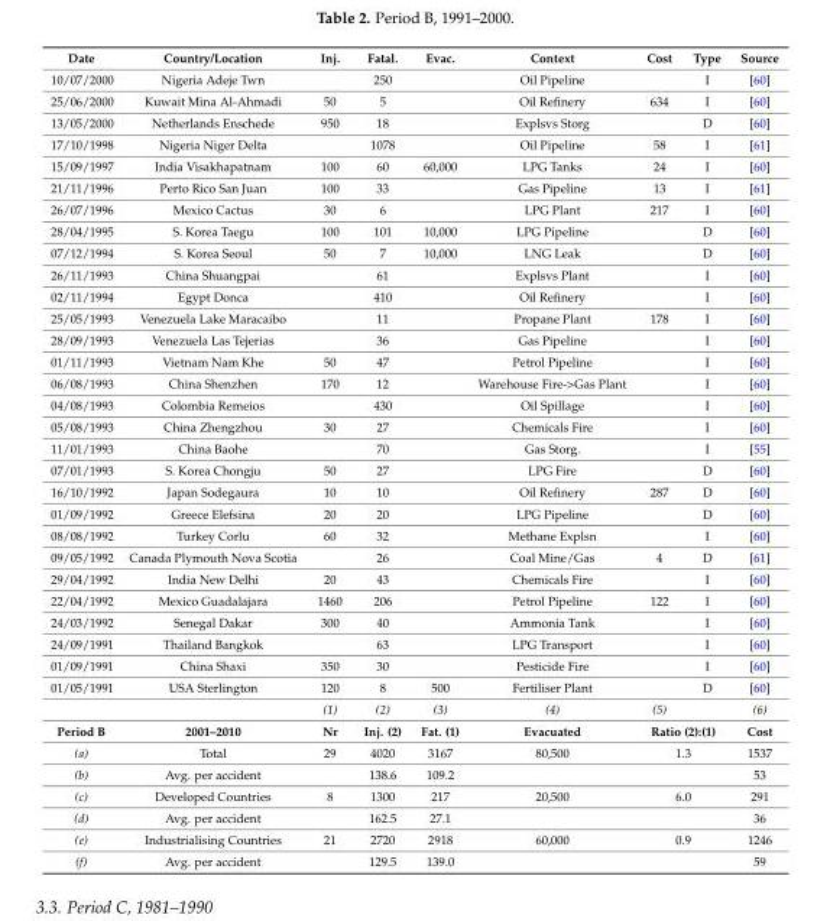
<table><tbody><tr><td>Date</td><td>Country/Location</td><td>Inj.</td><td>Fatal.</td><td>Evac.</td><td>Context</td><td>Cost</td><td>Type</td><td>Source</td></tr><tr><td>10/07/2000</td><td>Nigeria Adeje Twn</td><td></td><td>250</td><td></td><td>Oil Pipeline</td><td></td><td>I</td><td>[60]</td></tr><tr><td>25/06/2000</td><td>Kuwait Mina Al-Ahmadi</td><td>50</td><td>5</td><td></td><td>Oil Refinery</td><td>634</td><td>I</td><td>[60]</td></tr><tr><td>13/05/2000</td><td>Netherlands Enschede</td><td>950</td><td>18</td><td></td><td>Explsvs Storg</td><td></td><td>D</td><td>[60]</td></tr><tr><td>17/10/1998</td><td>Nigeria Niger Delta</td><td></td><td>1078</td><td></td><td>Oil Pipeline</td><td>58</td><td>I</td><td>[61]</td></tr><tr><td>15/09/1997</td><td>India Visakhapatnam</td><td>100</td><td>60</td><td>60,000</td><td>LPG Tanks</td><td>24</td><td>I</td><td>[60]</td></tr><tr><td>21/11/1996</td><td>Perto Rico San Juan</td><td>100</td><td>33</td><td></td><td>Gas Pipeline</td><td>13</td><td>I</td><td>[61]</td></tr><tr><td>26/07/1996</td><td>Mexico Cactus</td><td>30</td><td>6</td><td></td><td>LPG Plant</td><td>217</td><td>I</td><td>[60]</td></tr><tr><td>28/04/1995</td><td>S. Korea Taegu</td><td>100</td><td>101</td><td>10,000</td><td>LPG Pipeline</td><td></td><td>D</td><td>[60]</td></tr><tr><td>07/12/1994</td><td>S. Korea Seoul</td><td>50</td><td>7</td><td>10,000</td><td>LNG Leak</td><td></td><td>D</td><td>[60]</td></tr><tr><td>26/11/1993</td><td>China Shuangpai</td><td></td><td>61</td><td></td><td>Explsvs Plant</td><td></td><td>I</td><td>[60]</td></tr><tr><td>02/11/1994</td><td>Egypt Donca</td><td></td><td>410</td><td></td><td>Oil Refinery</td><td></td><td>I</td><td>[60]</td></tr><tr><td>25/05/1993</td><td>Venezuela Lake Maracaibo</td><td></td><td>11</td><td></td><td>Propane Plant</td><td>178</td><td>I</td><td>[60]</td></tr><tr><td>28/09/1993</td><td>Venezuela Las Tejerias</td><td></td><td>36</td><td></td><td>Gas Pipeline</td><td></td><td>I</td><td>[60]</td></tr><tr><td>01/11/1993</td><td>Vietnam Nam Khe</td><td>50</td><td>47</td><td></td><td>Petrol Pipeline</td><td></td><td>I</td><td>[60]</td></tr><tr><td>06/08/1993</td><td>China Shenzhen</td><td>170</td><td>12</td><td></td><td>Warehouse Fire-&gt;Gas Plant</td><td></td><td>I</td><td>[60]</td></tr><tr><td>04/08/1993</td><td>Colombia Remeios</td><td></td><td>430</td><td></td><td>Oil Spillage</td><td></td><td>I</td><td>[60]</td></tr><tr><td>05/08/1993</td><td>China Zhengzhou</td><td>30</td><td>27</td><td></td><td>Chemicals Fire</td><td></td><td>I</td><td>[60]</td></tr><tr><td>11/01/1993</td><td>China Baohe</td><td></td><td>70</td><td></td><td>Gas Storg.</td><td></td><td>I</td><td>[55]</td></tr><tr><td>07/01/1993</td><td>S. Korea Chongju</td><td>50</td><td>27</td><td></td><td>LPG Fire</td><td></td><td>D</td><td>[60]</td></tr><tr><td>16/10/1992</td><td>Japan Sodegaura</td><td>10</td><td>10</td><td></td><td>Oil Refinery</td><td>287</td><td>D</td><td>[60]</td></tr><tr><td>01/09/1992</td><td>Greece Elefsina</td><td>20</td><td>20</td><td></td><td>LPG Pipeline</td><td></td><td>D</td><td>[60]</td></tr><tr><td>08/08/1992</td><td>Turkey Corlu</td><td>60</td><td>32</td><td></td><td>Methane Explsn</td><td></td><td>I</td><td>[60]</td></tr><tr><td>09/05/1992</td><td>Canada Plymouth Nova Scotia</td><td></td><td>26</td><td></td><td>Coal Mine/Gas</td><td>4</td><td>D</td><td>[61]</td></tr><tr><td>29/04/1992</td><td>India New Delhi</td><td>20</td><td>43</td><td></td><td>Chemicals Fire</td><td></td><td>I</td><td>[60]</td></tr><tr><td>22/04/1992</td><td>Mexico Guadalajara</td><td>1460</td><td>206</td><td></td><td>Petrol Pipeline</td><td>122</td><td>I</td><td>[60]</td></tr><tr><td>24/03/1992</td><td>Senegal Dakar</td><td>300</td><td>40</td><td></td><td>Ammonia Tank</td><td></td><td>I</td><td>[60]</td></tr><tr><td>24/09/1991</td><td>Thailand Bangkok</td><td></td><td>63</td><td></td><td>LPG Transport</td><td></td><td>I</td><td>[60]</td></tr><tr><td>01/09/1991</td><td>China Shaxi</td><td>350</td><td>30</td><td></td><td>Pesticide Fire</td><td></td><td>I</td><td>[60]</td></tr><tr><td rowspan="2">01/05/1991</td><td>USA Sterlington</td><td>120</td><td>8</td><td>500</td><td>Fertiliser Plant</td><td></td><td>D</td><td>[60]</td></tr><tr><td></td><td>(1)</td><td>(2)</td><td>(3)</td><td>(4)</td><td>(5)</td><td></td><td>(6)</td></tr><tr><td>Period B</td><td>2001–2010</td><td>Nr</td><td>Inj. (2)</td><td>Fat. (1)</td><td>Evacuated</td><td colspan="2">Ratio (2):(1)</td><td>Cost</td></tr><tr><td>(a)</td><td>Total</td><td>29</td><td>4020</td><td>3167</td><td>80,500</td><td colspan="2">1.3</td><td>1537</td></tr><tr><td>(b)</td><td>Avg. per accident</td><td></td><td>138.6</td><td>109.2</td><td></td><td colspan="2"></td><td>53</td></tr><tr><td>(c)</td><td>Developed Countries</td><td>8</td><td>1300</td><td>217</td><td>20,500</td><td colspan="2">6.0</td><td>291</td></tr><tr><td>(d)</td><td>Avg. per accident</td><td></td><td>162.5</td><td>27.1</td><td></td><td colspan="2"></td><td>36</td></tr><tr><td>(e)</td><td>Industrialising Countries</td><td>21</td><td>2720</td><td>2918</td><td>60,000</td><td colspan="2">0.9</td><td>1246</td></tr><tr><td>(f)</td><td>Avg. per accident</td><td></td><td>129.5</td><td>139.0</td><td></td><td colspan="2"></td><td>59</td></tr></tbody></table>